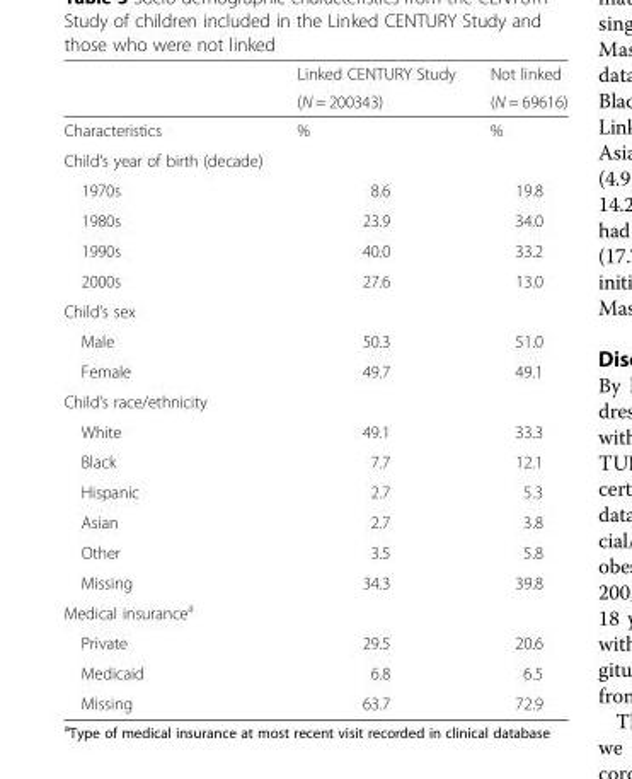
<table><thead><tr><td rowspan="2"></td><td rowspan="2">Linked CENTURY Study (N = 200343)</td><td rowspan="2">Not linked (N = 69616)</td></tr><tr></tr></thead><tbody><tr><td>Characteristics</td><td>%</td><td>%</td></tr><tr><td colspan="3">Child’s year of birth (decade)</td></tr><tr><td>1970s</td><td>8.6</td><td>19.8</td></tr><tr><td>1980s</td><td>23.9</td><td>34.0</td></tr><tr><td>1990s</td><td>40.0</td><td>33.2</td></tr><tr><td>2000s</td><td>27.6</td><td>13.0</td></tr><tr><td colspan="3">Child’s sex</td></tr><tr><td>Male</td><td>50.3</td><td>51.0</td></tr><tr><td>Female</td><td>49.7</td><td>49.1</td></tr><tr><td colspan="3">Child’s race/ethnicity</td></tr><tr><td>White</td><td>49.1</td><td>33.3</td></tr><tr><td>Black</td><td>7.7</td><td>12.1</td></tr><tr><td>Hispanic</td><td>2.7</td><td>5.3</td></tr><tr><td>Asian</td><td>2.7</td><td>3.8</td></tr><tr><td>Other</td><td>3.5</td><td>5.8</td></tr><tr><td>Missing</td><td>34.3</td><td>39.8</td></tr><tr><td colspan="3">Medical insurance<sup>a</sup></td></tr><tr><td>Private</td><td>29.5</td><td>20.6</td></tr><tr><td>Medicaid</td><td>6.8</td><td>6.5</td></tr><tr><td>Missing</td><td>63.7</td><td>72.9</td></tr></tbody></table>